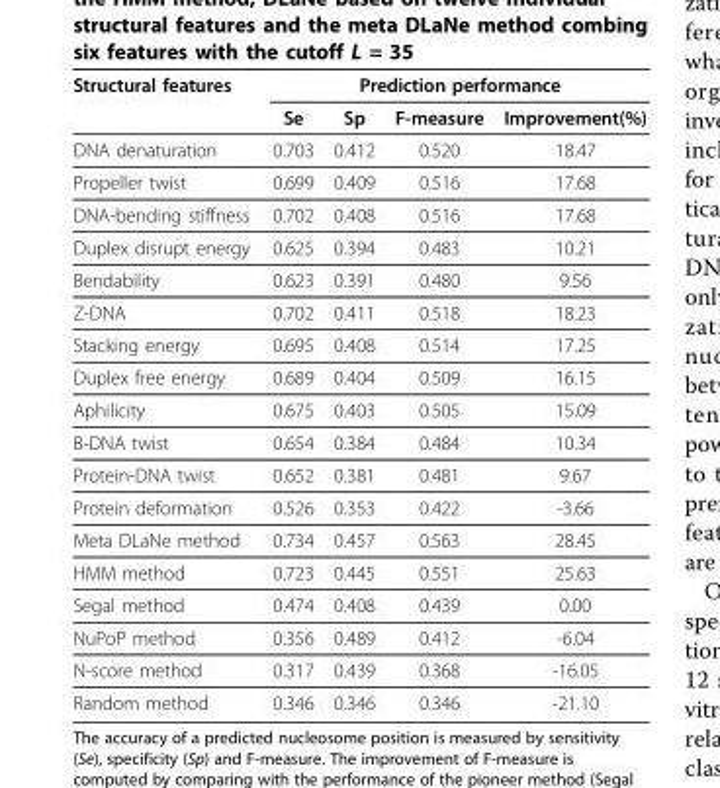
<table><thead><tr><td rowspan="2">Structural features</td><td colspan="4">Prediction performance</td></tr><tr><td>Se</td><td>Sp</td><td>F-measure</td><td>Improvement(%)</td></tr></thead><tbody><tr><td>DNA denaturation</td><td>0.703</td><td>0.412</td><td>0.520</td><td>18.47</td></tr><tr><td>Propeller twist</td><td>0.699</td><td>0.409</td><td>0.516</td><td>17.68</td></tr><tr><td>DNA-bending stiffness</td><td>0.702</td><td>0.408</td><td>0.516</td><td>17.68</td></tr><tr><td>Duplex disrupt energy</td><td>0.625</td><td>0.394</td><td>0.483</td><td>10.21</td></tr><tr><td>Bendability</td><td>0.623</td><td>0.391</td><td>0.480</td><td>9.56</td></tr><tr><td>Z-DNA</td><td>0.702</td><td>0.411</td><td>0.518</td><td>18.23</td></tr><tr><td>Stacking energy</td><td>0.695</td><td>0.408</td><td>0.514</td><td>17.25</td></tr><tr><td>Duplex free energy</td><td>0.689</td><td>0.404</td><td>0.509</td><td>16.15</td></tr><tr><td>Aphilicity</td><td>0.675</td><td>0.403</td><td>0.505</td><td>15.09</td></tr><tr><td>B-DNA twist</td><td>0.654</td><td>0.384</td><td>0.484</td><td>10.34</td></tr><tr><td>Protein-DNA twist</td><td>0.652</td><td>0.381</td><td>0.481</td><td>9.67</td></tr><tr><td>Protein deformation</td><td>0.526</td><td>0.353</td><td>0.422</td><td>-3.66</td></tr><tr><td>Meta DLaNe method</td><td>0.734</td><td>0.457</td><td>0.563</td><td>28.45</td></tr><tr><td>HMM method</td><td>0.723</td><td>0.445</td><td>0.551</td><td>25.63</td></tr><tr><td>Segal method</td><td>0.474</td><td>0.408</td><td>0.439</td><td>0.00</td></tr><tr><td>NuPoP method</td><td>0.356</td><td>0.489</td><td>0.412</td><td>-6.04</td></tr><tr><td>N-score method</td><td>0.317</td><td>0.439</td><td>0.368</td><td>-16.05</td></tr><tr><td>Random method</td><td>0.346</td><td>0.346</td><td>0.346</td><td>-21.10</td></tr></tbody></table>